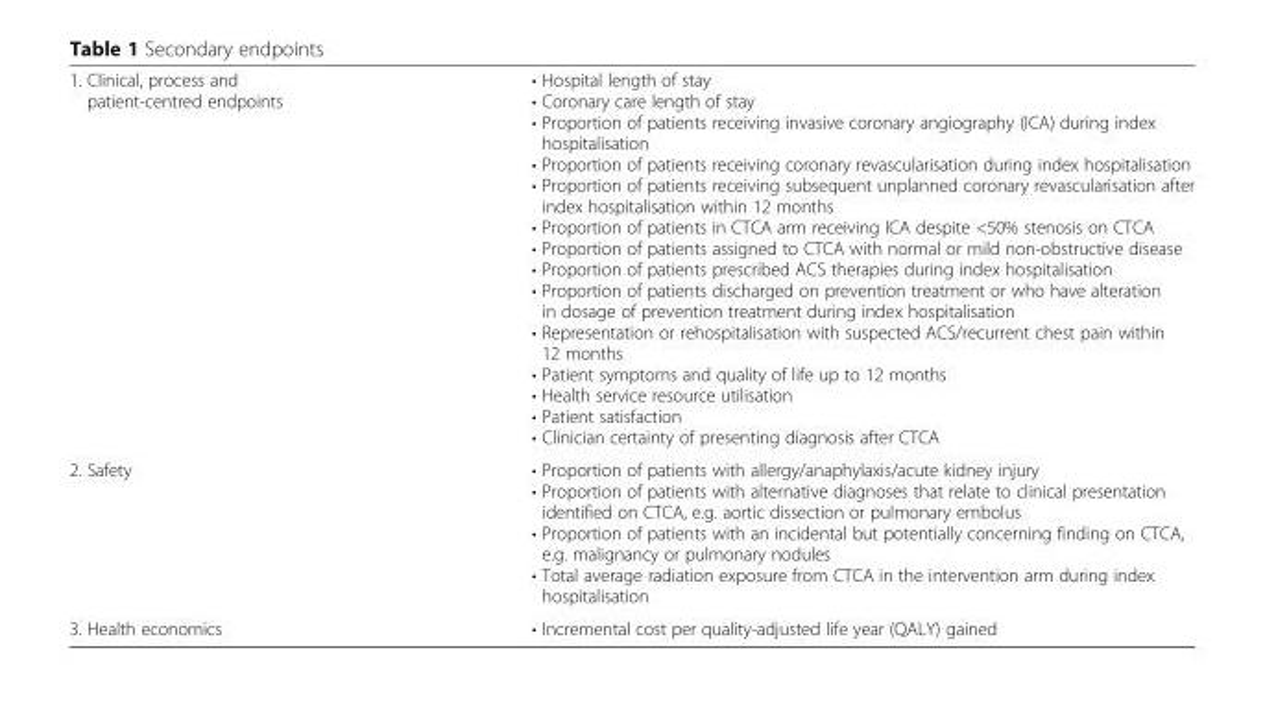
<table><tbody><tr><td>1. Clinical, process and patient-centred endpoints</td><td>• Hospital length of stay • Coronary care length of stay • Proportion of patients receiving invasive coronary angiography (ICA) during index hospitalisation • Proportion of patients receiving coronary revascularisation during index hospitalisation • Proportion of patients receiving subsequent unplanned coronary revascularisation after index hospitalisation within 12 months • Proportion of patients in CTCA arm receiving ICA despite &lt;50% stenosis on CTCA • Proportion of patients assigned to CTCA with normal or mild non-obstructive disease • Proportion of patients prescribed ACS therapies during index hospitalisation • Proportion of patients discharged on prevention treatment or who have alteration in dosage of prevention treatment during index hospitalisation • Representation or rehospitalisation with suspected ACS/recurrent chest pain within 12 months • Patient symptoms and quality of life up to 12 months • Health service resource utilisation • Patient satisfaction • Clinician certainty of presenting diagnosis after CTCA</td></tr><tr><td>2. Safety</td><td>• Proportion of patients with allergy/anaphylaxis/acute kidney injury • Proportion of patients with alternative diagnoses that relate to clinical presentation identified on CTCA, e.g. aortic dissection or pulmonary embolus • Proportion of patients with an incidental but potentially concerning finding on CTCA, e.g. malignancy or pulmonary nodules • Total average radiation exposure from CTCA in the intervention arm during index hospitalisation</td></tr><tr><td>3. Health economics</td><td>• Incremental cost per quality-adjusted life year (QALY) gained</td></tr></tbody></table>